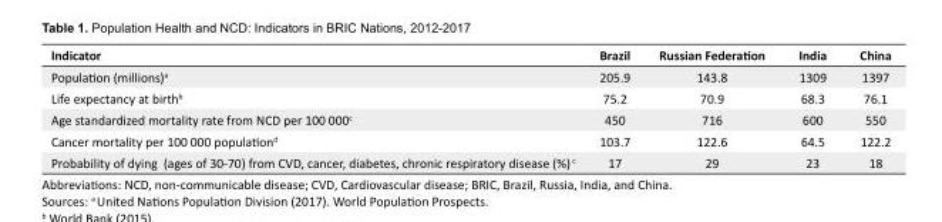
<table><tbody><tr><td>Indicator</td><td>Brazil</td><td>Russian Federation</td><td>India</td><td>China</td></tr><tr><td>Population (millions)<sup>a</sup></td><td>205.9</td><td>143.8</td><td>1309</td><td>1397</td></tr><tr><td>Life expectancy at birth<sup>b</sup></td><td>75.2</td><td>70.9</td><td>68.3</td><td>76.1</td></tr><tr><td>Age standardized mortality rate from NCD per 100 000<sup>c</sup></td><td>450</td><td>716</td><td>600</td><td>550</td></tr><tr><td>Cancer mortality per 100 000 population<sup>d</sup></td><td>103.7</td><td>122.6</td><td>64.5</td><td>122.2</td></tr><tr><td>Probability of dying (ages of 30-70) from CVD, cancer, diabetes, chronic respiratory disease (%) <sup>c</sup></td><td>17</td><td>29</td><td>23</td><td>18</td></tr></tbody></table>